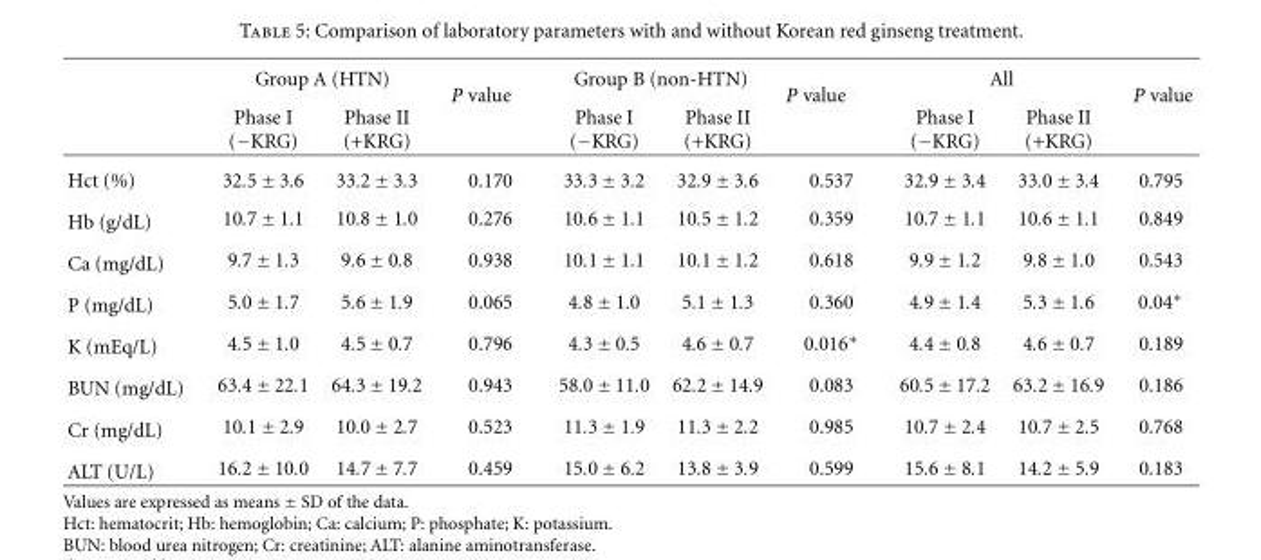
<table><thead><tr><td rowspan="2"></td><td colspan="2">Group A (HTN)</td><td rowspan="2">P value</td><td colspan="2">Group B (non-HTN)</td><td rowspan="2">P value</td><td colspan="2">All</td><td rowspan="2">P value</td></tr><tr><td>Phase I (−KRG)</td><td>Phase II (+KRG)</td><td>Phase I (−KRG)</td><td>Phase II (+KRG)</td><td>Phase I (−KRG)</td><td>Phase II (+KRG)</td></tr></thead><tbody><tr><td>Hct (%)</td><td>32.5 ± 3.6</td><td>33.2 ± 3.3</td><td>0.170</td><td>33.3 ± 3.2</td><td>32.9 ± 3.6</td><td>0.537</td><td>32.9 ± 3.4</td><td>33.0 ± 3.4</td><td>0.795</td></tr><tr><td>Hb (g/dL)</td><td>10.7 ± 1.1</td><td>10.8 ± 1.0</td><td>0.276</td><td>10.6 ± 1.1</td><td>10.5 ± 1.2</td><td>0.359</td><td>10.7 ± 1.1</td><td>10.6 ± 1.1</td><td>0.849</td></tr><tr><td>Ca (mg/dL)</td><td>9.7 ± 1.3</td><td>9.6 ± 0.8</td><td>0.938</td><td>10.1 ± 1.1</td><td>10.1 ± 1.2</td><td>0.618</td><td>9.9 ± 1.2</td><td>9.8 ± 1.0</td><td>0.543</td></tr><tr><td>P (mg/dL)</td><td>5.0 ± 1.7</td><td>5.6 ± 1.9</td><td>0.065</td><td>4.8 ± 1.0</td><td>5.1 ± 1.3</td><td>0.360</td><td>4.9 ± 1.4</td><td>5.3 ± 1.6</td><td>0.04∗</td></tr><tr><td>K (mEq/L)</td><td>4.5 ± 1.0</td><td>4.5 ± 0.7</td><td>0.796</td><td>4.3 ± 0.5</td><td>4.6 ± 0.7</td><td>0.016∗</td><td>4.4 ± 0.8</td><td>4.6 ± 0.7</td><td>0.189</td></tr><tr><td>BUN (mg/dL)</td><td>63.4 ± 22.1</td><td>64.3 ± 19.2</td><td>0.943</td><td>58.0 ± 11.0</td><td>62.2 ± 14.9</td><td>0.083</td><td>60.5 ± 17.2</td><td>63.2 ± 16.9</td><td>0.186</td></tr><tr><td>Cr (mg/dL)</td><td>10.1 ± 2.9</td><td>10.0 ± 2.7</td><td>0.523</td><td>11.3 ± 1.9</td><td>11.3 ± 2.2</td><td>0.985</td><td>10.7 ± 2.4</td><td>10.7 ± 2.5</td><td>0.768</td></tr><tr><td>ALT (U/L)</td><td>16.2 ± 10.0</td><td>14.7 ± 7.7</td><td>0.459</td><td>15.0 ± 6.2</td><td>13.8 ± 3.9</td><td>0.599</td><td>15.6 ± 8.1</td><td>14.2 ± 5.9</td><td>0.183</td></tr></tbody></table>